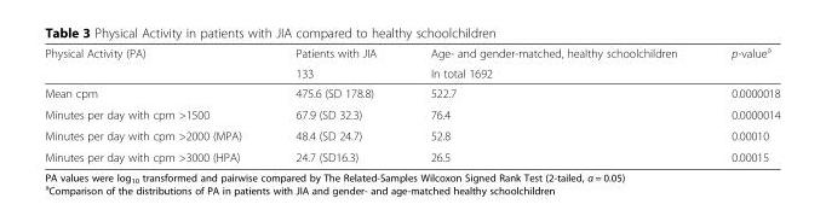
<table><thead><tr><td rowspan="2">Physical Activity (PA)</td><td rowspan="2">Patients with JIA 133</td><td rowspan="2">Age- and gender-matched, healthy schoolchildren In total 1692</td><td rowspan="2">p-value<sup>a</sup></td></tr><tr></tr></thead><tbody><tr><td>Mean cpm</td><td>475.6 (SD 178.8)</td><td>522.7</td><td>0.0000018</td></tr><tr><td>Minutes per day with cpm &gt;1500</td><td>67.9 (SD 32.3)</td><td>76.4</td><td>0.0000014</td></tr><tr><td>Minutes per day with cpm &gt;2000 (MPA)</td><td>48.4 (SD 24.7)</td><td>52.8</td><td>0.00010</td></tr><tr><td>Minutes per day with cpm &gt;3000 (HPA)</td><td>24.7 (SD16.3)</td><td>26.5</td><td>0.00015</td></tr></tbody></table>